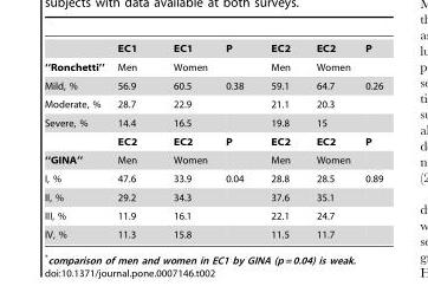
<table><thead><tr><td></td><td>EC1</td><td>EC1</td><td>P</td><td>EC2</td><td>EC2</td><td>P</td></tr></thead><tbody><tr><td>‘‘Ronchetti’’</td><td>Men</td><td>Women</td><td></td><td>Men</td><td>Women</td><td></td></tr><tr><td>Mild, %</td><td>56.9</td><td>60.5</td><td>0.38</td><td>59.1</td><td>64.7</td><td>0.26</td></tr><tr><td>Moderate, %</td><td>28.7</td><td>22.9</td><td></td><td>21.1</td><td>20.3</td><td></td></tr><tr><td rowspan="2">Severe, %</td><td>14.4</td><td>16.5</td><td></td><td>19.8</td><td>15</td><td></td></tr><tr><td>EC2</td><td>EC2</td><td>P</td><td>EC2</td><td>EC2</td><td>P</td></tr><tr><td>‘‘GINA’’</td><td>Men</td><td>Women</td><td></td><td>Men</td><td>Women</td><td></td></tr><tr><td>I, %</td><td>47.6</td><td>33.9</td><td>0.04</td><td>28.8</td><td>28.5</td><td>0.89</td></tr><tr><td>II, %</td><td>29.2</td><td>34.3</td><td></td><td>37.6</td><td>35.1</td><td></td></tr><tr><td>III, %</td><td>11.9</td><td>16.1</td><td></td><td>22.1</td><td>24.7</td><td></td></tr><tr><td>IV, %</td><td>11.3</td><td>15.8</td><td></td><td>11.5</td><td>11.7</td><td></td></tr></tbody></table>